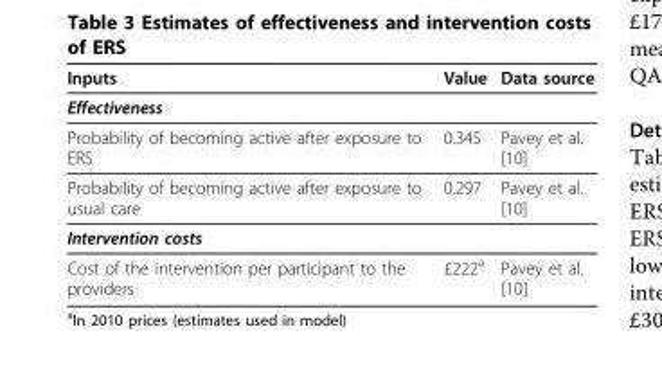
<table><thead><tr><td>Inputs</td><td>Value</td><td>Data source</td></tr></thead><tbody><tr><td colspan="3">Effectiveness</td></tr><tr><td>Probability of becoming active after exposure to ERS</td><td>0.345</td><td>Pavey et al. [10]</td></tr><tr><td>Probability of becoming active after exposure to usual care</td><td>0.297</td><td>Pavey et al. [10]</td></tr><tr><td colspan="3">Intervention costs</td></tr><tr><td>Cost of the intervention per participant to the providers</td><td>£222<sup>a</sup></td><td>Pavey et al. [10]</td></tr></tbody></table>